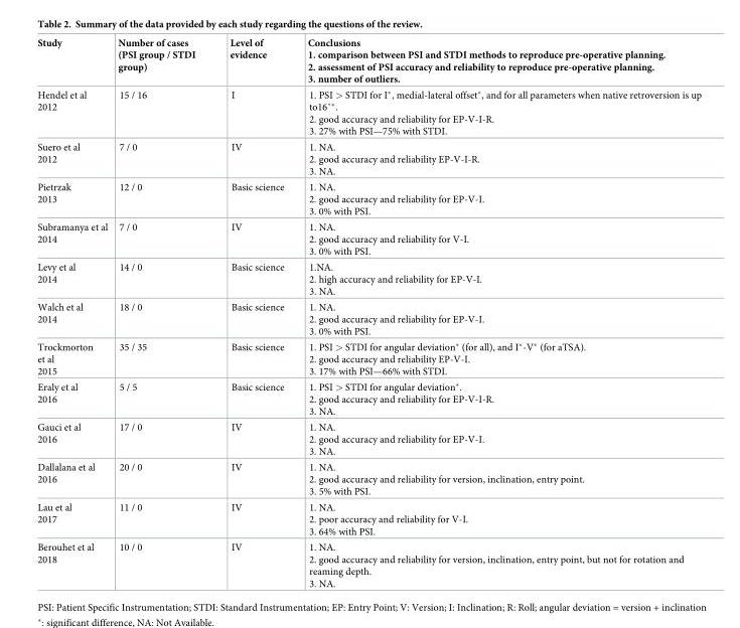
<table><thead><tr><td>Study</td><td>Number of cases (PSI group / STDI group)</td><td>Level of evidence</td><td>Conclusions 1. comparison between PSI and STDI methods to reproduce pre-operative planning. 2. assessment of PSI accuracy and reliability to reproduce pre-operative planning. 3. number of outliers.</td></tr></thead><tbody><tr><td>Hendel et al 2012</td><td>15 / 16</td><td>I</td><td>1. PSI &gt; STDI for I*, medial-lateral offset*, and for all parameters when native retroversion is up to16˚*. 2. good accuracy and reliability for EP-V-I-R. 3. 27% with PSI—75% with STDI.</td></tr><tr><td>Suero et al 2012</td><td>7 / 0</td><td>IV</td><td>1. NA. 2. good accuracy and reliability EP-V-I-R. 3. NA.</td></tr><tr><td>Pietrzak 2013</td><td>12 / 0</td><td>Basic science</td><td>1. NA. 2. good accuracy and reliability for EP-V-I. 3. 0% with PSI.</td></tr><tr><td>Subramanya et al 2014</td><td>7 / 0</td><td>IV</td><td>1. NA. 2. good accuracy and reliability for V-I. 3. 0% with PSI.</td></tr><tr><td>Levy et al 2014</td><td>14 / 0</td><td>Basic science</td><td>1.NA. 2. high accuracy and reliability for EP-V-I. 3. NA.</td></tr><tr><td>Walch et al 2014</td><td>18 / 0</td><td>Basic science</td><td>1. NA. 2. good accuracy and reliability for EP-V-I. 3. 0% with PSI.</td></tr><tr><td>Trockmorton et al 2015</td><td>35 / 35</td><td>Basic science</td><td>1. PSI &gt; STDI for angular deviation* (for all), and I*-V* (for aTSA). 2. good accuracy and reliability EP-V-I. 3. 17% with PSI—66% with STDI.</td></tr><tr><td>Eraly et al 2016</td><td>5 / 5</td><td>Basic science</td><td>1. PSI &gt; STDI for angular deviation*. 2. good accuracy and reliability for EP-V-I-R. 3. NA.</td></tr><tr><td>Gauci et al 2016</td><td>17 / 0</td><td>IV</td><td>1. NA. 2. good accuracy and reliability for EP-V-I. 3. NA.</td></tr><tr><td>Dallalana et al 2016</td><td>20 / 0</td><td>IV</td><td>1. NA. 2. good accuracy and reliability for version, inclination, entry point. 3. 5% with PSI.</td></tr><tr><td>Lau et al 2017</td><td>11 / 0</td><td>IV</td><td>1. NA. 2. poor accuracy and reliability for V-I. 3. 64% with PSI.</td></tr><tr><td>Berouhet et al 2018</td><td>10 / 0</td><td>IV</td><td>1. NA. 2. good accuracy and reliability for version, inclination, entry point, but not for rotation and reaming depth. 3. NA.</td></tr></tbody></table>